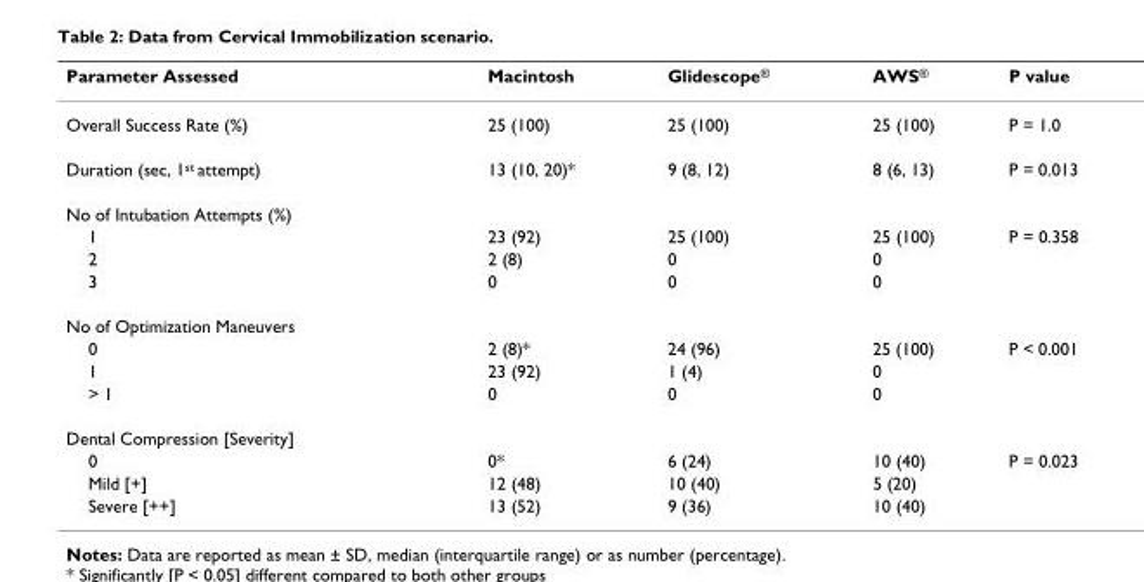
<table><thead><tr><td>Parameter Assessed</td><td>Macintosh</td><td>Glidescope<sup>®</sup></td><td>AWS<sup>®</sup></td><td>P value</td></tr></thead><tbody><tr><td>Overall Success Rate (%)</td><td>25 (100)</td><td>25 (100)</td><td>25 (100)</td><td>P = 1.0</td></tr><tr><td>Duration (sec, 1<sup>st</sup> attempt)</td><td>13 (10, 20)*</td><td>9 (8, 12)</td><td>8 (6, 13)</td><td>P = 0.013</td></tr><tr><td colspan="5">No of Intubation Attempts (%)</td></tr><tr><td>1</td><td>23 (92)</td><td>25 (100)</td><td>25 (100)</td><td>P = 0.358</td></tr><tr><td>2</td><td>2 (8)</td><td>0</td><td>0</td><td></td></tr><tr><td>3</td><td>0</td><td>0</td><td>0</td><td></td></tr><tr><td colspan="5">No of Optimization Maneuvers</td></tr><tr><td>0</td><td>2 (8)*</td><td>24 (96)</td><td>25 (100)</td><td>P &lt; 0.001</td></tr><tr><td>1</td><td>23 (92)</td><td>1 (4)</td><td>0</td><td></td></tr><tr><td>&gt; 1</td><td>0</td><td>0</td><td>0</td><td></td></tr><tr><td colspan="5">Dental Compression [Severity]</td></tr><tr><td>0</td><td>0*</td><td>6 (24)</td><td>10 (40)</td><td>P = 0.023</td></tr><tr><td>Mild [+]</td><td>12 (48)</td><td>10 (40)</td><td>5 (20)</td><td></td></tr><tr><td>Severe [++]</td><td>13 (52)</td><td>9 (36)</td><td>10 (40)</td><td></td></tr></tbody></table>